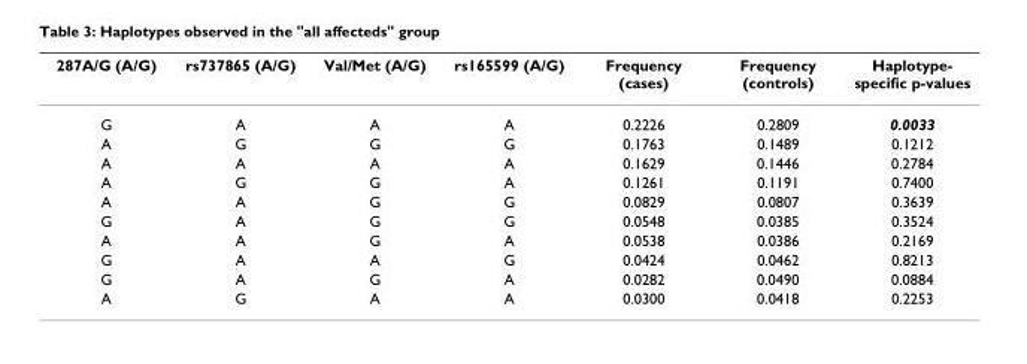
<table><thead><tr><td>287A/G (A/G)</td><td>rs737865 (A/G)</td><td>Val/Met (A/G)</td><td>rs165599 (A/G)</td><td>Frequency (cases)</td><td>Frequency (controls)</td><td>Haplotype- specific p-values</td></tr></thead><tbody><tr><td>G</td><td>A</td><td>A</td><td>A</td><td>0.2226</td><td>0.2809</td><td>0.0033</td></tr><tr><td>A</td><td>G</td><td>G</td><td>G</td><td>0.1763</td><td>0.1489</td><td>0.1212</td></tr><tr><td>A</td><td>A</td><td>A</td><td>A</td><td>0.1629</td><td>0.1446</td><td>0.2784</td></tr><tr><td>A</td><td>G</td><td>G</td><td>A</td><td>0.1261</td><td>0.1191</td><td>0.7400</td></tr><tr><td>A</td><td>A</td><td>G</td><td>G</td><td>0.0829</td><td>0.0807</td><td>0.3639</td></tr><tr><td>G</td><td>A</td><td>G</td><td>G</td><td>0.0548</td><td>0.0385</td><td>0.3524</td></tr><tr><td>A</td><td>A</td><td>G</td><td>A</td><td>0.0538</td><td>0.0386</td><td>0.2169</td></tr><tr><td>G</td><td>A</td><td>A</td><td>G</td><td>0.0424</td><td>0.0462</td><td>0.8213</td></tr><tr><td>G</td><td>A</td><td>G</td><td>A</td><td>0.0282</td><td>0.0490</td><td>0.0884</td></tr><tr><td>A</td><td>G</td><td>A</td><td>A</td><td>0.0300</td><td>0.0418</td><td>0.2253</td></tr></tbody></table>